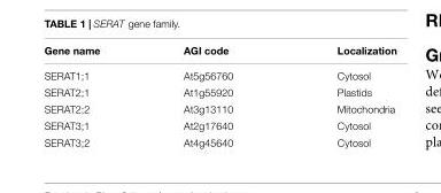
<table><thead><tr><td>Gene name</td><td>AGI code</td><td>Localization</td></tr></thead><tbody><tr><td>SERAT1;1</td><td>At5g56760</td><td>Cytosol</td></tr><tr><td>SERAT2;1</td><td>At1g55920</td><td>Plastids</td></tr><tr><td>SERAT2;2</td><td>At3g13110</td><td>Mitochondria</td></tr><tr><td>SERAT3;1</td><td>At2g17640</td><td>Cytosol</td></tr><tr><td>SERAT3;2</td><td>At4g45640</td><td>Cytosol</td></tr></tbody></table>